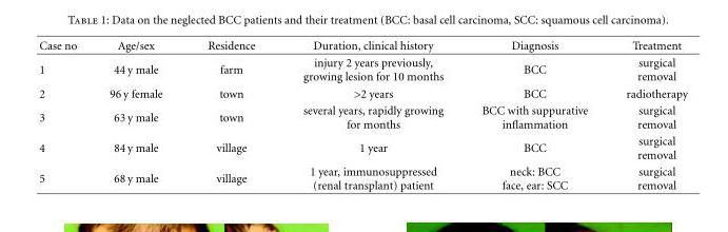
<table><thead><tr><td>Case no</td><td>Age/sex</td><td>Residence</td><td>Duration, clinical history</td><td>Diagnosis</td><td>Treatment</td></tr></thead><tbody><tr><td>1</td><td>44 y male</td><td>farm</td><td>injury 2 years previously, growing lesion for 10 months</td><td>BCC</td><td>surgical removal</td></tr><tr><td>2</td><td>96 y female</td><td>town</td><td>&gt;2 years</td><td>BCC</td><td>radiotherapy</td></tr><tr><td>3</td><td>63 y male</td><td>town</td><td>several years, rapidly growing for months</td><td>BCC with suppurative inflammation</td><td>surgical removal</td></tr><tr><td>4</td><td>84 y male</td><td>village</td><td>1 year</td><td>BCC</td><td>surgical removal</td></tr><tr><td>5</td><td>68 y male</td><td>village</td><td>1 year, immunosuppressed (renal transplant) patient</td><td>neck: BCC face, ear: SCC</td><td>surgical removal</td></tr></tbody></table>